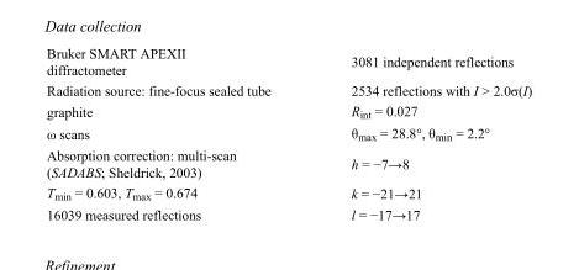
<table><tbody><tr><td>Bruker SMART APEXII diffractometer</td><td>3081 independent reflections</td></tr><tr><td>Radiation source: fine-focus sealed tube</td><td>2534 reflections with I &gt; 2.0σ(I)</td></tr><tr><td>graphite</td><td>R<sub>int</sub> = 0.027</td></tr><tr><td>ω scans</td><td>θ<sub>max</sub> = 28.8°, θ<sub>min</sub> = 2.2°</td></tr><tr><td>Absorption correction: multi-scan (SADABS; Sheldrick, 2003)</td><td>h = −7→8</td></tr><tr><td>T<sub>min</sub> = 0.603, T<sub>max</sub> = 0.674</td><td>k = −21→21</td></tr><tr><td>16039 measured reflections</td><td>l = −17→17</td></tr></tbody></table>